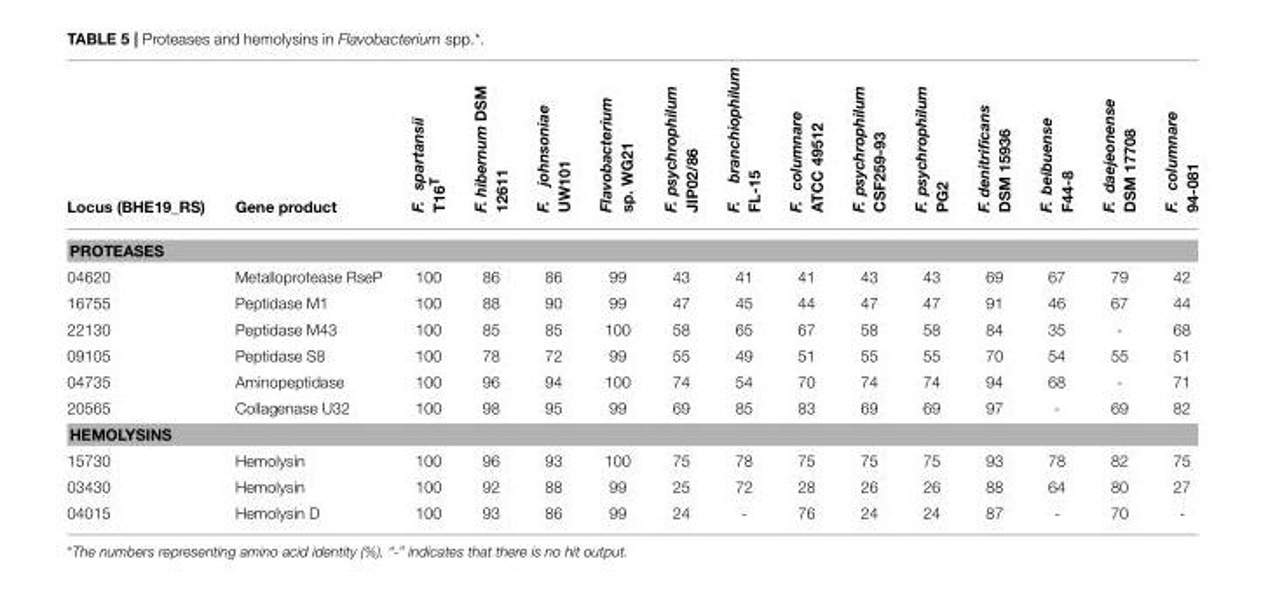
<table><thead><tr><td>Locus (BHE19_RS)</td><td>Gene product</td><td>F. spartansii T16<sup>T</sup></td><td>F. hibernum DSM 12611</td><td>F. johnsoniae UW101</td><td>Flavobacterium sp. WG21</td><td>F. psychrophilum JIP02/86</td><td>F. branchiophilum FL-15</td><td>F. columnare ATCC 49512</td><td>F. psychrophilum CSF259-93</td><td>F. psychrophilum PG2</td><td>F. denitrificans DSM 15936</td><td>F. beibuense F44-8</td><td>F. daejeonense DSM 17708</td><td>F. columnare 94-081</td></tr></thead><tbody><tr><td colspan="15">PROTEASES</td></tr><tr><td>04620</td><td>Metalloprotease RseP</td><td>100</td><td>86</td><td>86</td><td>99</td><td>43</td><td>41</td><td>41</td><td>43</td><td>43</td><td>69</td><td>67</td><td>79</td><td>42</td></tr><tr><td>16755</td><td>Peptidase M1</td><td>100</td><td>88</td><td>90</td><td>99</td><td>47</td><td>45</td><td>44</td><td>47</td><td>47</td><td>91</td><td>46</td><td>67</td><td>44</td></tr><tr><td>22130</td><td>Peptidase M43</td><td>100</td><td>85</td><td>85</td><td>100</td><td>58</td><td>65</td><td>67</td><td>58</td><td>58</td><td>84</td><td>35</td><td>-</td><td>68</td></tr><tr><td>09105</td><td>Peptidase S8</td><td>100</td><td>78</td><td>72</td><td>99</td><td>55</td><td>49</td><td>51</td><td>55</td><td>55</td><td>70</td><td>54</td><td>55</td><td>51</td></tr><tr><td>04735</td><td>Aminopeptidase</td><td>100</td><td>96</td><td>94</td><td>100</td><td>74</td><td>54</td><td>70</td><td>74</td><td>74</td><td>94</td><td>68</td><td>-</td><td>71</td></tr><tr><td>20565</td><td>Collagenase U32</td><td>100</td><td>98</td><td>95</td><td>99</td><td>69</td><td>85</td><td>83</td><td>69</td><td>69</td><td>97</td><td>-</td><td>69</td><td>82</td></tr><tr><td colspan="15">HEMOLYSINS</td></tr><tr><td>15730</td><td>Hemolysin</td><td>100</td><td>96</td><td>93</td><td>100</td><td>75</td><td>78</td><td>75</td><td>75</td><td>75</td><td>93</td><td>78</td><td>82</td><td>75</td></tr><tr><td>03430</td><td>Hemolysin</td><td>100</td><td>92</td><td>88</td><td>99</td><td>25</td><td>72</td><td>28</td><td>26</td><td>26</td><td>88</td><td>64</td><td>80</td><td>27</td></tr><tr><td>04015</td><td>Hemolysin D</td><td>100</td><td>93</td><td>86</td><td>99</td><td>24</td><td>-</td><td>76</td><td>24</td><td>24</td><td>87</td><td>-</td><td>70</td><td>-</td></tr></tbody></table>